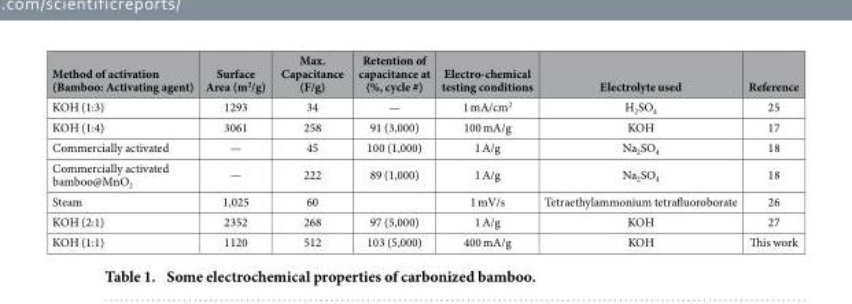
<table><thead><tr><td>Method of activation (Bamboo: Activating agent)</td><td>Surface Area (m<sup>2</sup>/g)</td><td>Max. Capacitance (F/g)</td><td>Retention of capacitance at (%, cycle #)</td><td>Electro-chemical testing conditions</td><td>Electrolyte used</td><td>Reference</td></tr></thead><tbody><tr><td>KOH (1:3)</td><td>1293</td><td>34</td><td>—</td><td>1 mA/cm<sup>2</sup></td><td>H<sub>2</sub>SO<sub>4</sub></td><td>25</td></tr><tr><td>KOH (1:4)</td><td>3061</td><td>258</td><td>91 (3,000)</td><td>100 mA/g</td><td>KOH</td><td>17</td></tr><tr><td>Commercially activated</td><td>—</td><td>45</td><td>100 (1,000)</td><td>1 A/g</td><td>Na<sub>2</sub>SO<sub>4</sub></td><td>18</td></tr><tr><td>Commercially activated bamboo@MnO<sub>2</sub></td><td>—</td><td>222</td><td>89 (1,000)</td><td>1 A/g</td><td>Na<sub>2</sub>SO<sub>4</sub></td><td>18</td></tr><tr><td>Steam</td><td>1,025</td><td>60</td><td></td><td>1 mV/s</td><td>Tetraethylammonium tetrafluoroborate</td><td>26</td></tr><tr><td>KOH (2:1)</td><td>2352</td><td>268</td><td>97 (5,000)</td><td>1 A/g</td><td>KOH</td><td>27</td></tr><tr><td>KOH (1:1)</td><td>1120</td><td>512</td><td>103 (5,000)</td><td>400 mA/g</td><td>KOH</td><td>This work</td></tr></tbody></table>